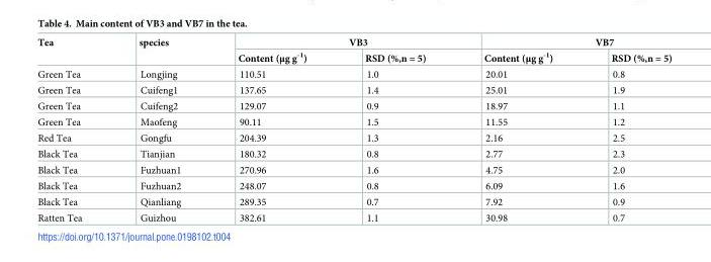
<table><thead><tr><td rowspan="2">Tea</td><td rowspan="2">species</td><td colspan="2">VB3</td><td colspan="2">VB7</td></tr><tr><td>Content (μg g<sup>-1</sup>)</td><td>RSD (%,n = 5)</td><td>Content (μg g<sup>-1</sup>)</td><td>RSD (%,n = 5)</td></tr></thead><tbody><tr><td>Green Tea</td><td>Longjing</td><td>110.51</td><td>1.0</td><td>20.01</td><td>0.8</td></tr><tr><td>Green Tea</td><td>Cuifeng1</td><td>137.65</td><td>1.4</td><td>25.01</td><td>1.9</td></tr><tr><td>Green Tea</td><td>Cuifeng2</td><td>129.07</td><td>0.9</td><td>18.97</td><td>1.1</td></tr><tr><td>Green Tea</td><td>Maofeng</td><td>90.11</td><td>1.5</td><td>11.55</td><td>1.2</td></tr><tr><td>Red Tea</td><td>Gongfu</td><td>204.39</td><td>1.3</td><td>2.16</td><td>2.5</td></tr><tr><td>Black Tea</td><td>Tianjian</td><td>180.32</td><td>0.8</td><td>2.77</td><td>2.3</td></tr><tr><td>Black Tea</td><td>Fuzhuan1</td><td>270.96</td><td>1.6</td><td>4.75</td><td>2.0</td></tr><tr><td>Black Tea</td><td>Fuzhuan2</td><td>248.07</td><td>0.8</td><td>6.09</td><td>1.6</td></tr><tr><td>Black Tea</td><td>Qianliang</td><td>289.35</td><td>0.7</td><td>7.92</td><td>0.9</td></tr><tr><td>Ratten Tea</td><td>Guizhou</td><td>382.61</td><td>1.1</td><td>30.98</td><td>0.7</td></tr></tbody></table>